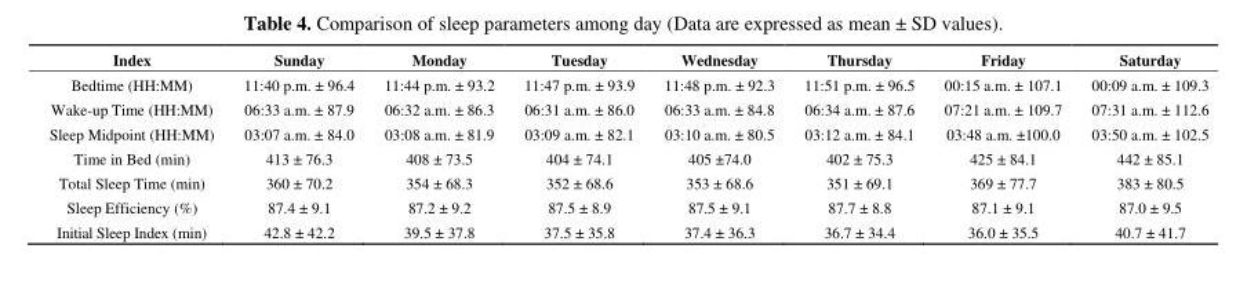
<table><thead><tr><td>Index</td><td>Sunday</td><td>Monday</td><td>Tuesday</td><td>Wednesday</td><td>Thursday</td><td>Friday</td><td>Saturday</td></tr></thead><tbody><tr><td>Bedtime (HH:MM)</td><td>11:40 p.m. ± 96.4</td><td>11:44 p.m. ± 93.2</td><td>11:47 p.m. ± 93.9</td><td>11:48 p.m. ± 92.3</td><td>11:51 p.m. ± 96.5</td><td>00:15 a.m. ± 107.1</td><td>00:09 a.m. ± 109.3</td></tr><tr><td>Wake-up Time (HH:MM)</td><td>06:33 a.m. ± 87.9</td><td>06:32 a.m. ± 86.3</td><td>06:31 a.m. ± 86.0</td><td>06:33 a.m. ± 84.8</td><td>06:34 a.m. ± 87.6</td><td>07:21 a.m. ± 109.7</td><td>07:31 a.m. ± 112.6</td></tr><tr><td>Sleep Midpoint (HH:MM)</td><td>03:07 a.m. ± 84.0</td><td>03:08 a.m. ± 81.9</td><td>03:09 a.m. ± 82.1</td><td>03:10 a.m. ± 80.5</td><td>03:12 a.m. ± 84.1</td><td>03:48 a.m. ±100.0</td><td>03:50 a.m. ± 102.5</td></tr><tr><td>Time in Bed (min)</td><td>413 ± 76.3</td><td>408 ± 73.5</td><td>404 ± 74.1</td><td>405 ±74.0</td><td>402 ± 75.3</td><td>425 ± 84.1</td><td>442 ± 85.1</td></tr><tr><td>Total Sleep Time (min)</td><td>360 ± 70.2</td><td>354 ± 68.3</td><td>352 ± 68.6</td><td>353 ± 68.6</td><td>351 ± 69.1</td><td>369 ± 77.7</td><td>383 ± 80.5</td></tr><tr><td>Sleep Efficiency (%)</td><td>87.4 ± 9.1</td><td>87.2 ± 9.2</td><td>87.5 ± 8.9</td><td>87.5 ± 9.1</td><td>87.7 ± 8.8</td><td>87.1 ± 9.1</td><td>87.0 ± 9.5</td></tr><tr><td>Initial Sleep Index (min)</td><td>42.8 ± 42.2</td><td>39.5 ± 37.8</td><td>37.5 ± 35.8</td><td>37.4 ± 36.3</td><td>36.7 ± 34.4</td><td>36.0 ± 35.5</td><td>40.7 ± 41.7</td></tr></tbody></table>